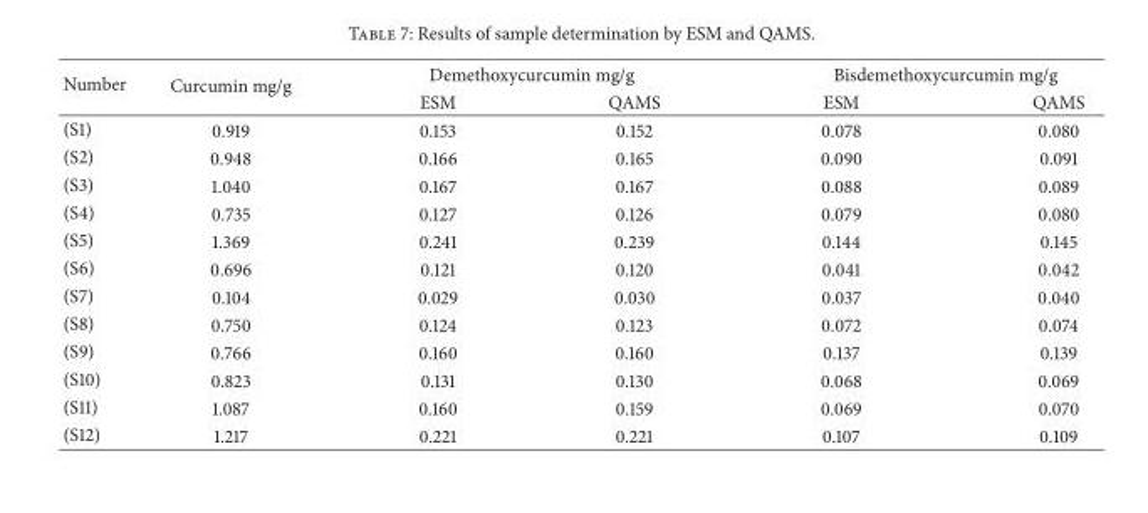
<table><thead><tr><td rowspan="2">Number</td><td rowspan="2">Curcumin mg/g</td><td colspan="2">Demethoxycurcumin mg/g</td><td colspan="2">Bisdemethoxycurcumin mg/g</td></tr><tr><td>ESM</td><td>QAMS</td><td>ESM</td><td>QAMS</td></tr></thead><tbody><tr><td>(S1)</td><td>0.919</td><td>0.153</td><td>0.152</td><td>0.078</td><td>0.080</td></tr><tr><td>(S2)</td><td>0.948</td><td>0.166</td><td>0.165</td><td>0.090</td><td>0.091</td></tr><tr><td>(S3)</td><td>1.040</td><td>0.167</td><td>0.167</td><td>0.088</td><td>0.089</td></tr><tr><td>(S4)</td><td>0.735</td><td>0.127</td><td>0.126</td><td>0.079</td><td>0.080</td></tr><tr><td>(S5)</td><td>1.369</td><td>0.241</td><td>0.239</td><td>0.144</td><td>0.145</td></tr><tr><td>(S6)</td><td>0.696</td><td>0.121</td><td>0.120</td><td>0.041</td><td>0.042</td></tr><tr><td>(S7)</td><td>0.104</td><td>0.029</td><td>0.030</td><td>0.037</td><td>0.040</td></tr><tr><td>(S8)</td><td>0.750</td><td>0.124</td><td>0.123</td><td>0.072</td><td>0.074</td></tr><tr><td>(S9)</td><td>0.766</td><td>0.160</td><td>0.160</td><td>0.137</td><td>0.139</td></tr><tr><td>(S10)</td><td>0.823</td><td>0.131</td><td>0.130</td><td>0.068</td><td>0.069</td></tr><tr><td>(S11)</td><td>1.087</td><td>0.160</td><td>0.159</td><td>0.069</td><td>0.070</td></tr><tr><td>(S12)</td><td>1.217</td><td>0.221</td><td>0.221</td><td>0.107</td><td>0.109</td></tr></tbody></table>